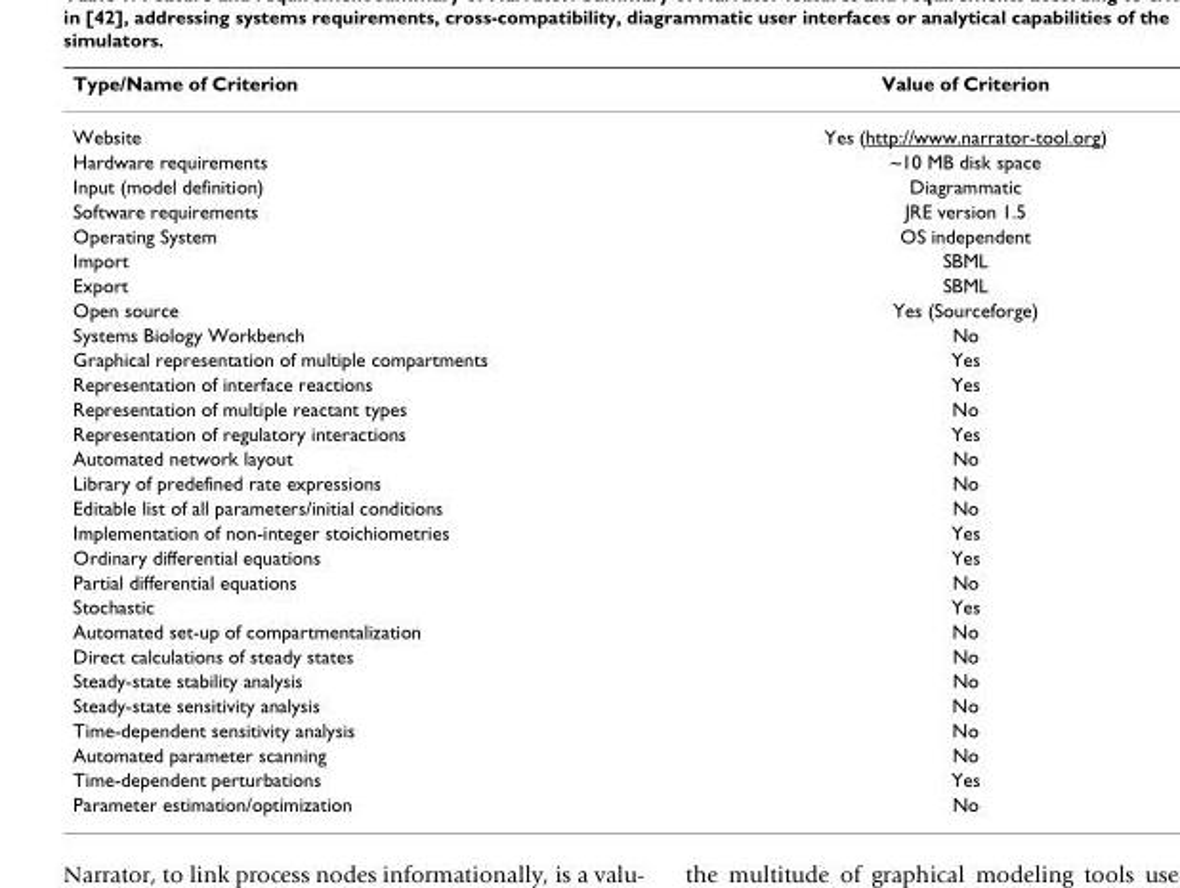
<table><thead><tr><td>Type/Name of Criterion</td><td>Value of Criterion</td></tr></thead><tbody><tr><td>Website</td><td>Yes (http://www.narrator-tool.org)</td></tr><tr><td>Hardware requirements</td><td>~10 MB disk space</td></tr><tr><td>Input (model definition)</td><td>Diagrammatic</td></tr><tr><td>Software requirements</td><td>JRE version 1.5</td></tr><tr><td>Operating System</td><td>OS independent</td></tr><tr><td>Import</td><td>SBML</td></tr><tr><td>Export</td><td>SBML</td></tr><tr><td>Open source</td><td>Yes (Sourceforge)</td></tr><tr><td>Systems Biology Workbench</td><td>No</td></tr><tr><td>Graphical representation of multiple compartments</td><td>Yes</td></tr><tr><td>Representation of interface reactions</td><td>Yes</td></tr><tr><td>Representation of multiple reactant types</td><td>No</td></tr><tr><td>Representation of regulatory interactions</td><td>Yes</td></tr><tr><td>Automated network layout</td><td>No</td></tr><tr><td>Library of predefined rate expressions</td><td>No</td></tr><tr><td>Editable list of all parameters/initial conditions</td><td>No</td></tr><tr><td>Implementation of non-integer stoichiometries</td><td>Yes</td></tr><tr><td>Ordinary differential equations</td><td>Yes</td></tr><tr><td>Partial differential equations</td><td>No</td></tr><tr><td>Stochastic</td><td>Yes</td></tr><tr><td>Automated set-up of compartmentalization</td><td>No</td></tr><tr><td>Direct calculations of steady states</td><td>No</td></tr><tr><td>Steady-state stability analysis</td><td>No</td></tr><tr><td>Steady-state sensitivity analysis</td><td>No</td></tr><tr><td>Time-dependent sensitivity analysis</td><td>No</td></tr><tr><td>Automated parameter scanning</td><td>No</td></tr><tr><td>Time-dependent perturbations</td><td>Yes</td></tr><tr><td>Parameter estimation/optimization</td><td>No</td></tr></tbody></table>